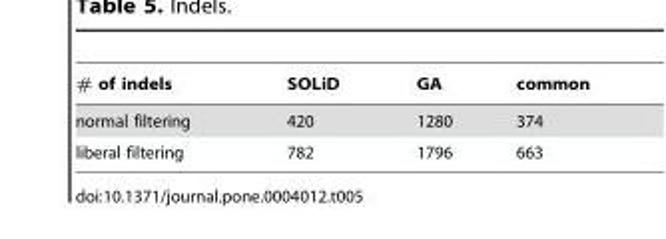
<table><thead><tr><td># of indels</td><td>SOLiD</td><td>GA</td><td>common</td></tr></thead><tbody><tr><td>normal filtering</td><td>420</td><td>1280</td><td>374</td></tr><tr><td>liberal filtering</td><td>782</td><td>1796</td><td>663</td></tr></tbody></table>